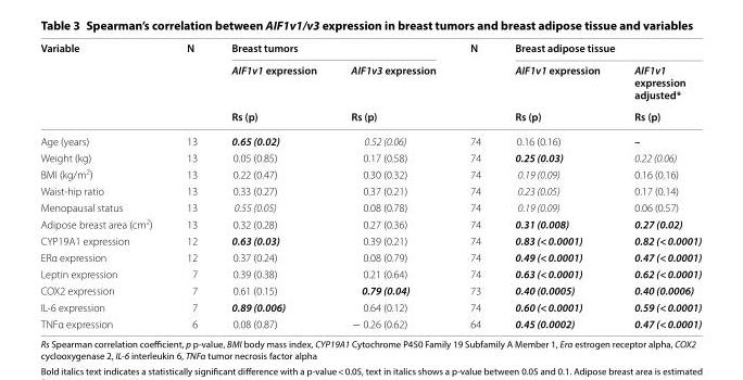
<table><thead><tr><td rowspan="3">Variable</td><td rowspan="3">N</td><td colspan="2">Breast tumors</td><td rowspan="3">N</td><td colspan="2">Breast adipose tissue</td></tr><tr><td rowspan="2">AIF1v1 expression Rs (p)</td><td rowspan="2">AIF1v3 expression Rs (p)</td><td rowspan="2">AIF1v1 expression Rs (p)</td><td rowspan="2">AIF1v1 expression adjusted* Rs (p)</td></tr><tr></tr></thead><tbody><tr><td>Age (years)</td><td>13</td><td>0.65 (0.02)</td><td>0.52 (0.06)</td><td>74</td><td>0.16 (0.16)</td><td>–</td></tr><tr><td>Weight (kg)</td><td>13</td><td>0.05 (0.85)</td><td>0.17 (0.58)</td><td>74</td><td>0.25 (0.03)</td><td>0.22 (0.06)</td></tr><tr><td>BMI (kg/m<sup>2</sup>)</td><td>13</td><td>0.22 (0.47)</td><td>0.30 (0.32)</td><td>74</td><td>0.19 (0.09)</td><td>0.16 (0.16)</td></tr><tr><td>Waist‑hip ratio</td><td>13</td><td>0.33 (0.27)</td><td>0.37 (0.21)</td><td>74</td><td>0.23 (0.05)</td><td>0.17 (0.14)</td></tr><tr><td>Menopausal status</td><td>13</td><td>0.55 (0.05)</td><td>0.08 (0.78)</td><td>74</td><td>0.19 (0.09)</td><td>0.06 (0.57)</td></tr><tr><td>Adipose breast area (cm<sup>2</sup>)</td><td>13</td><td>0.32 (0.28)</td><td>0.27 (0.36)</td><td>74</td><td>0.31 (0.008)</td><td>0.27 (0.02)</td></tr><tr><td>CYP19A1 expression</td><td>12</td><td>0.63 (0.03)</td><td>0.39 (0.21)</td><td>74</td><td>0.83 (&lt; 0.0001)</td><td>0.82 (&lt; 0.0001)</td></tr><tr><td>ERα expression</td><td>12</td><td>0.37 (0.24)</td><td>0.08 (0.79)</td><td>74</td><td>0.49 (&lt; 0.0001)</td><td>0.47 (&lt; 0.0001)</td></tr><tr><td>Leptin expression</td><td>7</td><td>0.39 (0.38)</td><td>0.21 (0.64)</td><td>74</td><td>0.63 (&lt; 0.0001)</td><td>0.62 (&lt; 0.0001)</td></tr><tr><td>COX2 expression</td><td>7</td><td>0.61 (0.15)</td><td>0.79 (0.04)</td><td>73</td><td>0.40 (0.0005)</td><td>0.40 (0.0006)</td></tr><tr><td>IL‑6 expression</td><td>7</td><td>0.89 (0.006)</td><td>0.64 (0.12)</td><td>74</td><td>0.60 (&lt; 0.0001)</td><td>0.59 (&lt; 0.0001)</td></tr><tr><td>TNFα expression</td><td>6</td><td>0.08 (0.87)</td><td>− 0.26 (0.62)</td><td>64</td><td>0.45 (0.0002)</td><td>0.47 (&lt; 0.0001)</td></tr></tbody></table>